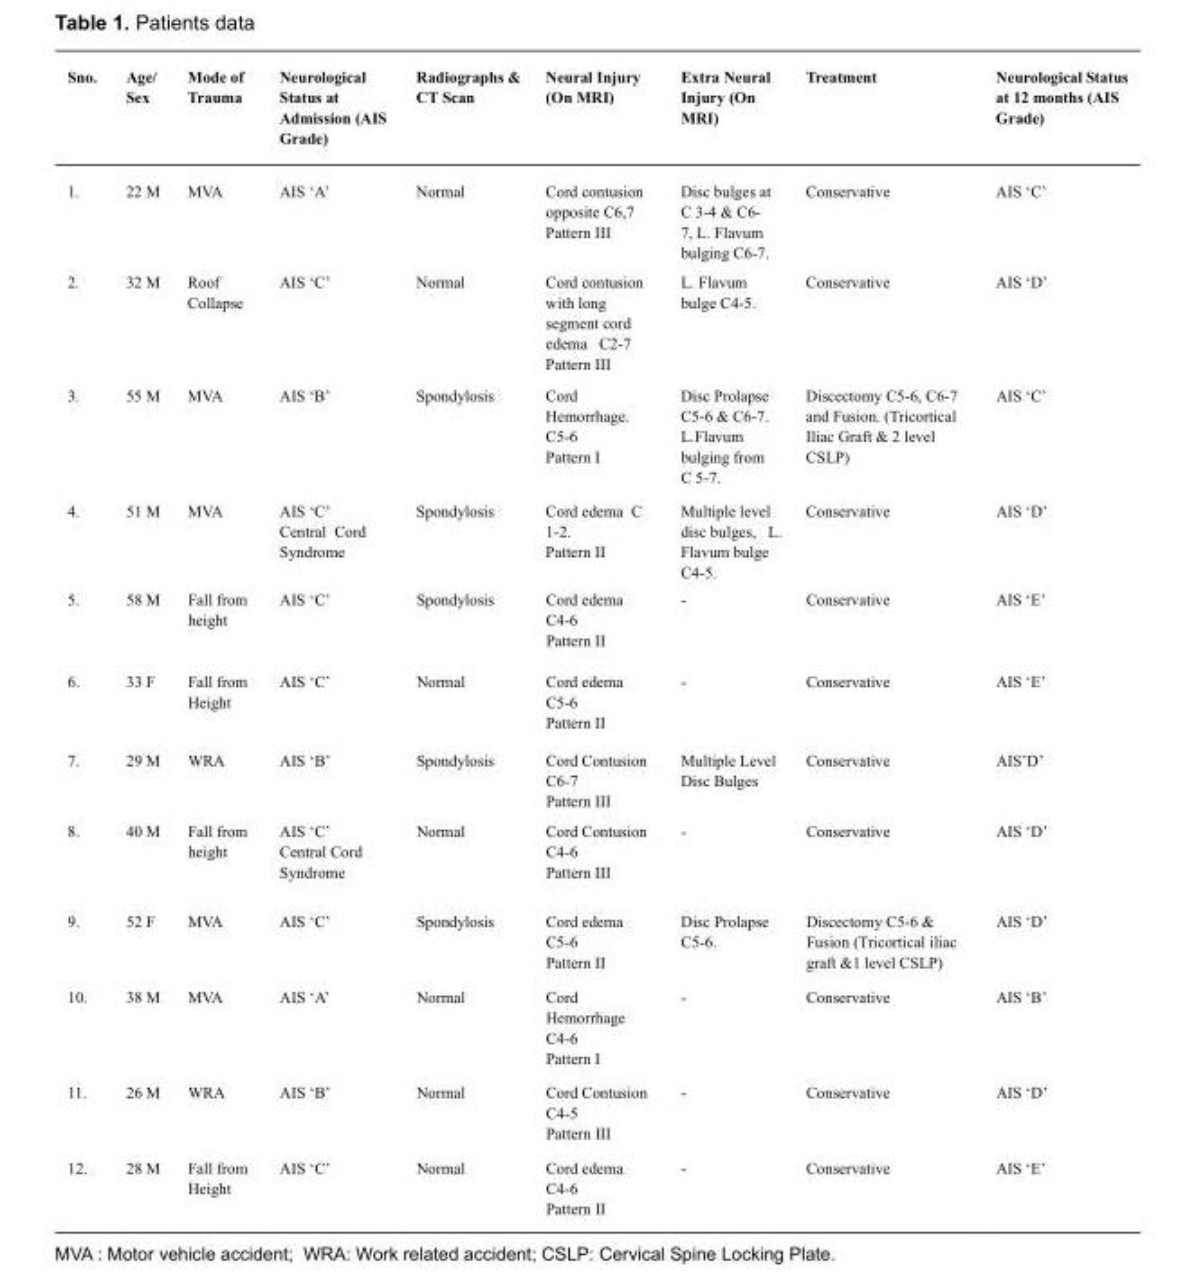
<table><thead><tr><td>Sno.</td><td>Age/ Sex</td><td>Mode of Trauma</td><td>Neurological Status at Admission (AIS Grade)</td><td>Radiographs &amp; CT Scan</td><td>Neural Injury (On MRI)</td><td>Extra Neural Injury (On MRI)</td><td>Treatment</td><td>Neurological Status at 12 months (AIS Grade)</td></tr></thead><tbody><tr><td>1.</td><td>22 M</td><td>MVA</td><td>AIS ‘A’</td><td>Normal</td><td>Cord contusion opposite C6,7 Pattern III</td><td>Disc bulges at C 3-4 &amp; C6- 7, L. Flavum bulging C6-7.</td><td>Conservative</td><td>AIS ‘C’</td></tr><tr><td>2.</td><td>32 M</td><td>Roof Collapse</td><td>AIS ‘C’</td><td>Normal</td><td>Cord contusion with long segment cord edema C2-7 Pattern III</td><td>L. Flavum bulge C4-5.</td><td>Conservative</td><td>AIS ‘D’</td></tr><tr><td>3.</td><td>55 M</td><td>MVA</td><td>AIS ‘B’</td><td>Spondylosis</td><td>Cord Hemorrhage. C5-6 Pattern I</td><td>Disc Prolapse C5-6 &amp; C6-7. L.Flavum bulging from C 5-7.</td><td>Discectomy C5-6, C6-7 and Fusion. (Tricortical Iliac Graft &amp; 2 level CSLP)</td><td>AIS ‘C’</td></tr><tr><td>4.</td><td>51 M</td><td>MVA</td><td>AIS ‘C’ Central Cord Syndrome</td><td>Spondylosis</td><td>Cord edema C 1-2. Pattern II</td><td>Multiple level disc bulges, L. Flavum bulge C4-5.</td><td>Conservative</td><td>AIS ‘D’</td></tr><tr><td>5.</td><td>58 M</td><td>Fall from height</td><td>AIS ‘C’</td><td>Spondylosis</td><td>Cord edema C4-6 Pattern II</td><td>-</td><td>Conservative</td><td>AIS ‘E’</td></tr><tr><td>6.</td><td>33 F</td><td>Fall from Height</td><td>AIS ‘C’</td><td>Normal</td><td>Cord edema C5-6 Pattern II</td><td>-</td><td>Conservative</td><td>AIS ‘E’</td></tr><tr><td>7.</td><td>29 M</td><td>WRA</td><td>AIS ‘B’</td><td>Spondylosis</td><td>Cord Contusion C6-7 Pattern III</td><td>Multiple Level Disc Bulges</td><td>Conservative</td><td>AIS’D’</td></tr><tr><td>8.</td><td>40 M</td><td>Fall from height</td><td>AIS ‘C’ Central Cord Syndrome</td><td>Normal</td><td>Cord Contusion C4-6 Pattern III</td><td>-</td><td>Conservative</td><td>AIS ‘D’</td></tr><tr><td>9.</td><td>52 F</td><td>MVA</td><td>AIS ‘C’</td><td>Spondylosis</td><td>Cord edema C5-6 Pattern II</td><td>Disc Prolapse C5-6.</td><td>Discectomy C5-6 &amp; Fusion (Tricortical iliac graft &amp;1 level CSLP)</td><td>AIS ‘D’</td></tr><tr><td>10.</td><td>38 M</td><td>MVA</td><td>AIS ‘A’</td><td>Normal</td><td>Cord Hemorrhage C4-6 Pattern I</td><td>-</td><td>Conservative</td><td>AIS ‘B’</td></tr><tr><td>11.</td><td>26 M</td><td>WRA</td><td>AIS ‘B’</td><td>Normal</td><td>Cord Contusion C4-5 Pattern III</td><td>-</td><td>Conservative</td><td>AIS ‘D’</td></tr><tr><td>12.</td><td>28 M</td><td>Fall from Height</td><td>AIS ‘C’</td><td>Normal</td><td>Cord edema C4-6 Pattern II</td><td>-</td><td>Conservative</td><td>AIS ‘E’</td></tr></tbody></table>